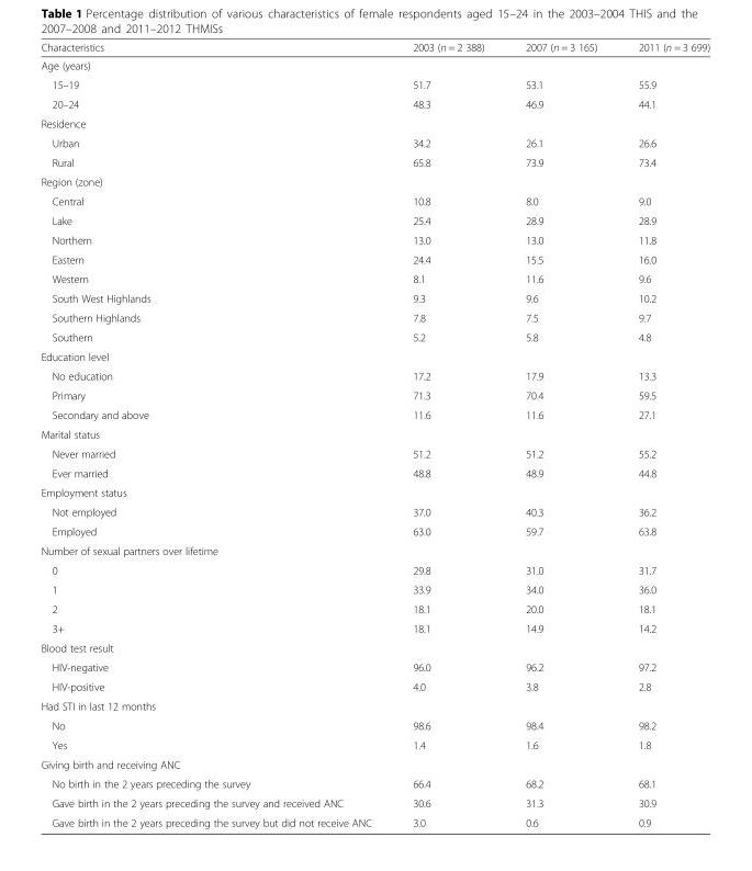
<table><thead><tr><td>Characteristics</td><td>2003 (n = 2 388)</td><td>2007 (n = 3 165)</td><td>2011 (n = 3 699)</td></tr></thead><tbody><tr><td colspan="4">Age (years)</td></tr><tr><td>15–19</td><td>51.7</td><td>53.1</td><td>55.9</td></tr><tr><td>20–24</td><td>48.3</td><td>46.9</td><td>44.1</td></tr><tr><td colspan="4">Residence</td></tr><tr><td>Urban</td><td>34.2</td><td>26.1</td><td>26.6</td></tr><tr><td>Rural</td><td>65.8</td><td>73.9</td><td>73.4</td></tr><tr><td colspan="4">Region (zone)</td></tr><tr><td>Central</td><td>10.8</td><td>8.0</td><td>9.0</td></tr><tr><td>Lake</td><td>25.4</td><td>28.9</td><td>28.9</td></tr><tr><td>Northern</td><td>13.0</td><td>13.0</td><td>11.8</td></tr><tr><td>Eastern</td><td>24.4</td><td>15.5</td><td>16.0</td></tr><tr><td>Western</td><td>8.1</td><td>11.6</td><td>9.6</td></tr><tr><td>South West Highlands</td><td>9.3</td><td>9.6</td><td>10.2</td></tr><tr><td>Southern Highlands</td><td>7.8</td><td>7.5</td><td>9.7</td></tr><tr><td>Southern</td><td>5.2</td><td>5.8</td><td>4.8</td></tr><tr><td colspan="4">Education level</td></tr><tr><td>No education</td><td>17.2</td><td>17.9</td><td>13.3</td></tr><tr><td>Primary</td><td>71.3</td><td>70.4</td><td>59.5</td></tr><tr><td>Secondary and above</td><td>11.6</td><td>11.6</td><td>27.1</td></tr><tr><td colspan="4">Marital status</td></tr><tr><td>Never married</td><td>51.2</td><td>51.2</td><td>55.2</td></tr><tr><td>Ever married</td><td>48.8</td><td>48.9</td><td>44.8</td></tr><tr><td colspan="4">Employment status</td></tr><tr><td>Not employed</td><td>37.0</td><td>40.3</td><td>36.2</td></tr><tr><td>Employed</td><td>63.0</td><td>59.7</td><td>63.8</td></tr><tr><td colspan="4">Number of sexual partners over lifetime</td></tr><tr><td>0</td><td>29.8</td><td>31.0</td><td>31.7</td></tr><tr><td>1</td><td>33.9</td><td>34.0</td><td>36.0</td></tr><tr><td>2</td><td>18.1</td><td>20.0</td><td>18.1</td></tr><tr><td>3+</td><td>18.1</td><td>14.9</td><td>14.2</td></tr><tr><td colspan="4">Blood test result</td></tr><tr><td>HIV-negative</td><td>96.0</td><td>96.2</td><td>97.2</td></tr><tr><td>HIV-positive</td><td>4.0</td><td>3.8</td><td>2.8</td></tr><tr><td colspan="4">Had STI in last 12 months</td></tr><tr><td>No</td><td>98.6</td><td>98.4</td><td>98.2</td></tr><tr><td>Yes</td><td>1.4</td><td>1.6</td><td>1.8</td></tr><tr><td colspan="4">Giving birth and receiving ANC</td></tr><tr><td>No birth in the 2 years preceding the survey</td><td>66.4</td><td>68.2</td><td>68.1</td></tr><tr><td>Gave birth in the 2 years preceding the survey and received ANC</td><td>30.6</td><td>31.3</td><td>30.9</td></tr><tr><td>Gave birth in the 2 years preceding the survey but did not receive ANC</td><td>3.0</td><td>0.6</td><td>0.9</td></tr></tbody></table>